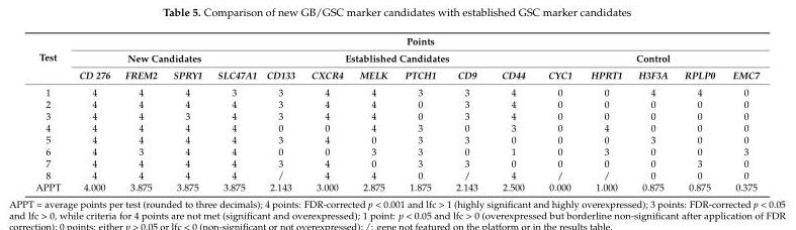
<table><thead><tr><td rowspan="3">Test</td><td colspan="15">Points</td></tr><tr><td colspan="4">New Candidates</td><td colspan="6">Established Candidates</td><td colspan="5">Control</td></tr><tr><td>CD 276</td><td>FREM2</td><td>SPRY1</td><td>SLC47A1</td><td>CD133</td><td>CXCR4</td><td>MELK</td><td>PTCH1</td><td>CD9</td><td>CD44</td><td>CYC1</td><td>HPRT1</td><td>H3F3A</td><td>RPLP0</td><td>EMC7</td></tr></thead><tbody><tr><td>1</td><td>4</td><td>4</td><td>4</td><td>3</td><td>3</td><td>4</td><td>4</td><td>3</td><td>3</td><td>4</td><td>0</td><td>0</td><td>4</td><td>4</td><td>0</td></tr><tr><td>2</td><td>4</td><td>4</td><td>4</td><td>4</td><td>3</td><td>4</td><td>4</td><td>0</td><td>3</td><td>4</td><td>0</td><td>0</td><td>0</td><td>0</td><td>0</td></tr><tr><td>3</td><td>4</td><td>4</td><td>3</td><td>4</td><td>3</td><td>4</td><td>4</td><td>0</td><td>3</td><td>4</td><td>0</td><td>0</td><td>0</td><td>0</td><td>0</td></tr><tr><td>4</td><td>4</td><td>4</td><td>4</td><td>4</td><td>0</td><td>0</td><td>4</td><td>3</td><td>0</td><td>3</td><td>0</td><td>4</td><td>0</td><td>0</td><td>0</td></tr><tr><td>5</td><td>4</td><td>4</td><td>4</td><td>4</td><td>3</td><td>4</td><td>0</td><td>3</td><td>3</td><td>0</td><td>0</td><td>0</td><td>3</td><td>0</td><td>0</td></tr><tr><td>6</td><td>4</td><td>3</td><td>4</td><td>4</td><td>0</td><td>0</td><td>3</td><td>3</td><td>0</td><td>1</td><td>0</td><td>3</td><td>0</td><td>0</td><td>3</td></tr><tr><td>7</td><td>4</td><td>4</td><td>4</td><td>4</td><td>3</td><td>4</td><td>0</td><td>3</td><td>3</td><td>0</td><td>0</td><td>0</td><td>0</td><td>3</td><td>0</td></tr><tr><td>8</td><td>4</td><td>4</td><td>4</td><td>4</td><td>/</td><td>4</td><td>4</td><td>0</td><td>/</td><td>4</td><td>/</td><td>/</td><td>0</td><td>0</td><td>0</td></tr><tr><td>APPT</td><td>4.000</td><td>3.875</td><td>3.875</td><td>3.875</td><td>2.143</td><td>3.000</td><td>2.875</td><td>1.875</td><td>2.143</td><td>2.500</td><td>0.000</td><td>1.000</td><td>0.875</td><td>0.875</td><td>0.375</td></tr></tbody></table>